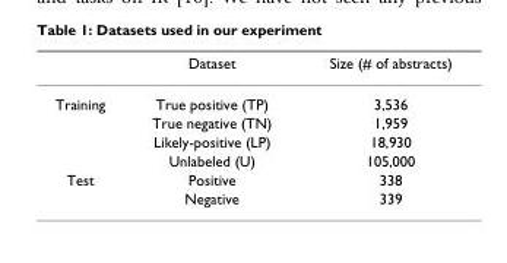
<table><thead><tr><td></td><td>Dataset</td><td>Size (# of abstracts)</td></tr></thead><tbody><tr><td rowspan="4">Training</td><td>True positive (TP)</td><td>3,536</td></tr><tr><td>True negative (TN)</td><td>1,959</td></tr><tr><td>Likely-positive (LP)</td><td>18,930</td></tr><tr><td>Unlabeled (U)</td><td>105,000</td></tr><tr><td rowspan="2">Test</td><td>Positive</td><td>338</td></tr><tr><td>Negative</td><td>339</td></tr></tbody></table>